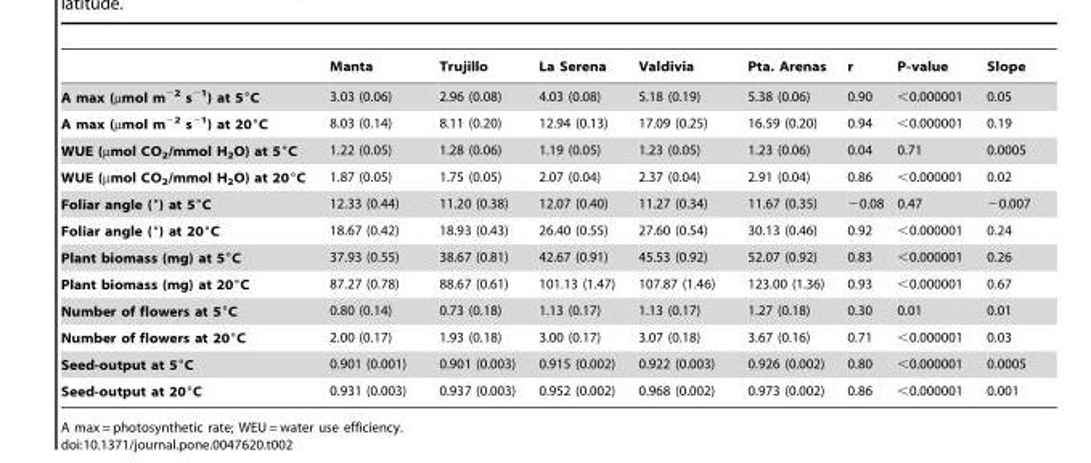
<table><thead><tr><td></td><td>Manta</td><td>Trujillo</td><td>La Serena</td><td>Valdivia</td><td>Pta. Arenas</td><td>r</td><td>P-value</td><td>Slope</td></tr></thead><tbody><tr><td>A max (µmol m<sup>−2</sup> s<sup>−1</sup>) at 5°C</td><td>3.03 (0.06)</td><td>2.96 (0.08)</td><td>4.03 (0.08)</td><td>5.18 (0.19)</td><td>5.38 (0.06)</td><td>0.90</td><td>&lt;0.000001</td><td>0.05</td></tr><tr><td>A max (µmol m<sup>−2</sup> s<sup>−1</sup>) at 20°C</td><td>8.03 (0.14)</td><td>8.11 (0.20)</td><td>12.94 (0.13)</td><td>17.09 (0.25)</td><td>16.59 (0.20)</td><td>0.94</td><td>&lt;0.000001</td><td>0.19</td></tr><tr><td>WUE (µmol CO<sub>2</sub>/mmol H<sub>2</sub>O) at 5°C</td><td>1.22 (0.05)</td><td>1.28 (0.06)</td><td>1.19 (0.05)</td><td>1.23 (0.05)</td><td>1.23 (0.06)</td><td>0.04</td><td>0.71</td><td>0.0005</td></tr><tr><td>WUE (µmol CO<sub>2</sub>/mmol H<sub>2</sub>O) at 20°C</td><td>1.87 (0.05)</td><td>1.75 (0.05)</td><td>2.07 (0.04)</td><td>2.37 (0.04)</td><td>2.91 (0.04)</td><td>0.86</td><td>&lt;0.000001</td><td>0.02</td></tr><tr><td>Foliar angle (°) at 5°C</td><td>12.33 (0.44)</td><td>11.20 (0.38)</td><td>12.07 (0.40)</td><td>11.27 (0.34)</td><td>11.67 (0.35)</td><td>−0.08</td><td>0.47</td><td>−0.007</td></tr><tr><td>Foliar angle (°) at 20°C</td><td>18.67 (0.42)</td><td>18.93 (0.43)</td><td>26.40 (0.55)</td><td>27.60 (0.54)</td><td>30.13 (0.46)</td><td>0.92</td><td>&lt;0.000001</td><td>0.24</td></tr><tr><td>Plant biomass (mg) at 5°C</td><td>37.93 (0.55)</td><td>38.67 (0.81)</td><td>42.67 (0.91)</td><td>45.53 (0.92)</td><td>52.07 (0.92)</td><td>0.83</td><td>&lt;0.000001</td><td>0.26</td></tr><tr><td>Plant biomass (mg) at 20°C</td><td>87.27 (0.78)</td><td>88.67 (0.61)</td><td>101.13 (1.47)</td><td>107.87 (1.46)</td><td>123.00 (1.36)</td><td>0.93</td><td>&lt;0.000001</td><td>0.67</td></tr><tr><td>Number of flowers at 5°C</td><td>0.80 (0.14)</td><td>0.73 (0.18)</td><td>1.13 (0.17)</td><td>1.13 (0.17)</td><td>1.27 (0.18)</td><td>0.30</td><td>0.01</td><td>0.01</td></tr><tr><td>Number of flowers at 20°C</td><td>2.00 (0.17)</td><td>1.93 (0.18)</td><td>3.00 (0.17)</td><td>3.07 (0.18)</td><td>3.67 (0.16)</td><td>0.71</td><td>&lt;0.000001</td><td>0.03</td></tr><tr><td>Seed-output at 5°C</td><td>0.901 (0.001)</td><td>0.901 (0.003)</td><td>0.915 (0.002)</td><td>0.922 (0.003)</td><td>0.926 (0.002)</td><td>0.80</td><td>&lt;0.000001</td><td>0.0005</td></tr><tr><td>Seed-output at 20°C</td><td>0.931 (0.003)</td><td>0.937 (0.003)</td><td>0.952 (0.002)</td><td>0.968 (0.002)</td><td>0.973 (0.002)</td><td>0.86</td><td>&lt;0.000001</td><td>0.001</td></tr></tbody></table>